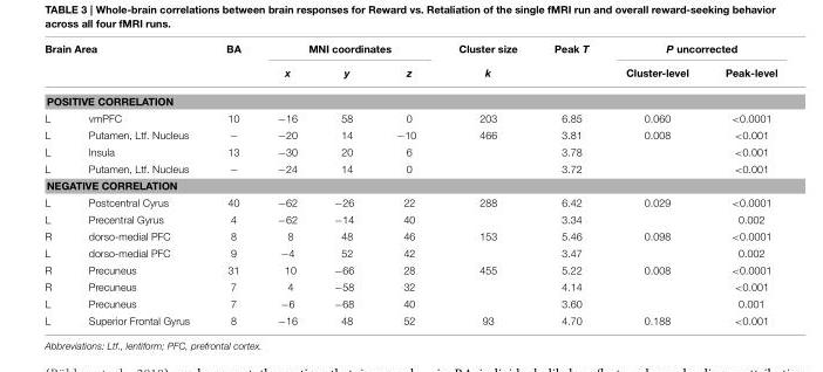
<table><thead><tr><td colspan="2">Brain Area</td><td rowspan="2">BA</td><td colspan="3">MNI coordinates</td><td rowspan="2">Cluster size k</td><td rowspan="2">Peak T</td><td colspan="2">P uncorrected</td></tr><tr><td></td><td></td><td>x</td><td>y</td><td>z</td><td>Cluster-level</td><td>Peak-level</td></tr></thead><tbody><tr><td colspan="10">POSITIVE CORRELATION</td></tr><tr><td>L</td><td>vmPFC</td><td>10</td><td>−16</td><td>58</td><td>0</td><td>203</td><td>6.85</td><td>0.060</td><td>&lt;0.0001</td></tr><tr><td>L</td><td>Putamen, Ltf. Nucleus</td><td>−</td><td>−20</td><td>14</td><td>−10</td><td>466</td><td>3.81</td><td>0.008</td><td>&lt;0.001</td></tr><tr><td>L</td><td>Insula</td><td>13</td><td>−30</td><td>20</td><td>6</td><td></td><td>3.78</td><td></td><td>&lt;0.001</td></tr><tr><td>L</td><td>Putamen, Ltf. Nucleus</td><td>−</td><td>−24</td><td>14</td><td>0</td><td></td><td>3.72</td><td></td><td>&lt;0.001</td></tr><tr><td colspan="10">NEGATIVE CORRELATION</td></tr><tr><td>L</td><td>Postcentral Cyrus</td><td>40</td><td>−62</td><td>−26</td><td>22</td><td>288</td><td>6.42</td><td>0.029</td><td>&lt;0.0001</td></tr><tr><td>L</td><td>Precentral Gyrus</td><td>4</td><td>−62</td><td>−14</td><td>40</td><td></td><td>3.34</td><td></td><td>0.002</td></tr><tr><td>R</td><td>dorso-medial PFC</td><td>8</td><td>8</td><td>48</td><td>46</td><td>153</td><td>5.46</td><td>0.098</td><td>&lt;0.0001</td></tr><tr><td>L</td><td>dorso-medial PFC</td><td>9</td><td>−4</td><td>52</td><td>42</td><td></td><td>3.47</td><td></td><td>0.002</td></tr><tr><td>R</td><td>Precuneus</td><td>31</td><td>10</td><td>−66</td><td>28</td><td>455</td><td>5.22</td><td>0.008</td><td>&lt;0.0001</td></tr><tr><td>R</td><td>Precuneus</td><td>7</td><td>4</td><td>−58</td><td>32</td><td></td><td>4.14</td><td></td><td>&lt;0.001</td></tr><tr><td>L</td><td>Precuneus</td><td>7</td><td>−6</td><td>−68</td><td>40</td><td></td><td>3.60</td><td></td><td>0.001</td></tr><tr><td>L</td><td>Superior Frontal Gyrus</td><td>8</td><td>−16</td><td>48</td><td>52</td><td>93</td><td>4.70</td><td>0.188</td><td>&lt;0.001</td></tr></tbody></table>